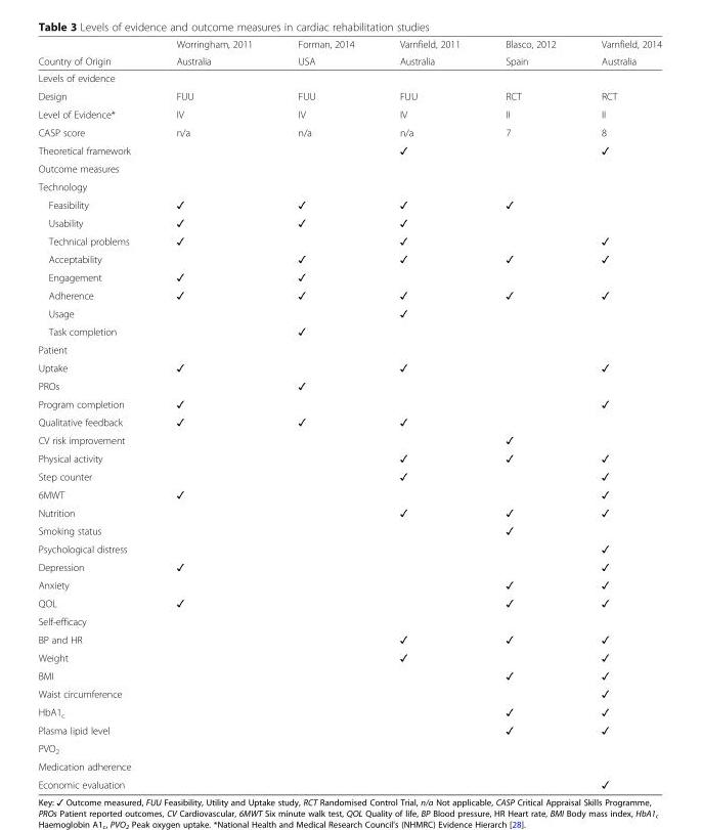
<table><thead><tr><td rowspan="2">Country of Origin</td><td rowspan="2">Worringham, 2011 Australia</td><td rowspan="2">Forman, 2014 USA</td><td rowspan="2">Varnfield, 2011 Australia</td><td rowspan="2">Blasco, 2012 Spain</td><td rowspan="2">Varnfield, 2014 Australia</td></tr><tr></tr></thead><tbody><tr><td colspan="6">Levels of evidence</td></tr><tr><td>Design</td><td>FUU</td><td>FUU</td><td>FUU</td><td>RCT</td><td>RCT</td></tr><tr><td>Level of Evidence*</td><td>IV</td><td>IV</td><td>IV</td><td>II</td><td>II</td></tr><tr><td>CASP score</td><td>n/a</td><td>n/a</td><td>n/a</td><td>7</td><td>8</td></tr><tr><td>Theoretical framework</td><td></td><td></td><td>✓</td><td></td><td>✓</td></tr><tr><td colspan="6">Outcome measures</td></tr><tr><td colspan="6">Technology</td></tr><tr><td>Feasibility</td><td>✓</td><td>✓</td><td>✓</td><td>✓</td><td></td></tr><tr><td>Usability</td><td>✓</td><td>✓</td><td>✓</td><td></td><td></td></tr><tr><td>Technical problems</td><td>✓</td><td></td><td>✓</td><td></td><td>✓</td></tr><tr><td>Acceptability</td><td></td><td>✓</td><td>✓</td><td>✓</td><td>✓</td></tr><tr><td>Engagement</td><td>✓</td><td>✓</td><td></td><td></td><td></td></tr><tr><td>Adherence</td><td>✓</td><td>✓</td><td>✓</td><td>✓</td><td>✓</td></tr><tr><td>Usage</td><td></td><td></td><td>✓</td><td></td><td></td></tr><tr><td>Task completion</td><td></td><td>✓</td><td></td><td></td><td></td></tr><tr><td colspan="6">Patient</td></tr><tr><td>Uptake</td><td>✓</td><td></td><td>✓</td><td></td><td>✓</td></tr><tr><td>PROs</td><td></td><td>✓</td><td></td><td></td><td></td></tr><tr><td>Program completion</td><td>✓</td><td></td><td></td><td></td><td>✓</td></tr><tr><td>Qualitative feedback</td><td>✓</td><td>✓</td><td>✓</td><td></td><td></td></tr><tr><td>CV risk improvement</td><td></td><td></td><td></td><td>✓</td><td></td></tr><tr><td>Physical activity</td><td></td><td></td><td>✓</td><td>✓</td><td>✓</td></tr><tr><td>Step counter</td><td></td><td></td><td>✓</td><td></td><td>✓</td></tr><tr><td>6MWT</td><td>✓</td><td></td><td></td><td></td><td>✓</td></tr><tr><td>Nutrition</td><td></td><td></td><td>✓</td><td>✓</td><td>✓</td></tr><tr><td>Smoking status</td><td></td><td></td><td></td><td>✓</td><td></td></tr><tr><td>Psychological distress</td><td></td><td></td><td></td><td></td><td>✓</td></tr><tr><td>Depression</td><td>✓</td><td></td><td></td><td></td><td>✓</td></tr><tr><td>Anxiety</td><td></td><td></td><td></td><td>✓</td><td>✓</td></tr><tr><td>QOL</td><td>✓</td><td></td><td></td><td>✓</td><td>✓</td></tr><tr><td colspan="6">Self-efficacy</td></tr><tr><td>BP and HR</td><td></td><td></td><td>✓</td><td>✓</td><td>✓</td></tr><tr><td>Weight</td><td></td><td></td><td>✓</td><td></td><td>✓</td></tr><tr><td>BMI</td><td></td><td></td><td></td><td>✓</td><td>✓</td></tr><tr><td>Waist circumference</td><td></td><td></td><td></td><td></td><td>✓</td></tr><tr><td>HbA1<sub>c</sub></td><td></td><td></td><td></td><td>✓</td><td>✓</td></tr><tr><td>Plasma lipid level</td><td></td><td></td><td></td><td>✓</td><td>✓</td></tr><tr><td colspan="6">PVO<sub>2</sub></td></tr><tr><td colspan="6">Medication adherence</td></tr><tr><td>Economic evaluation</td><td></td><td></td><td></td><td></td><td>✓</td></tr></tbody></table>